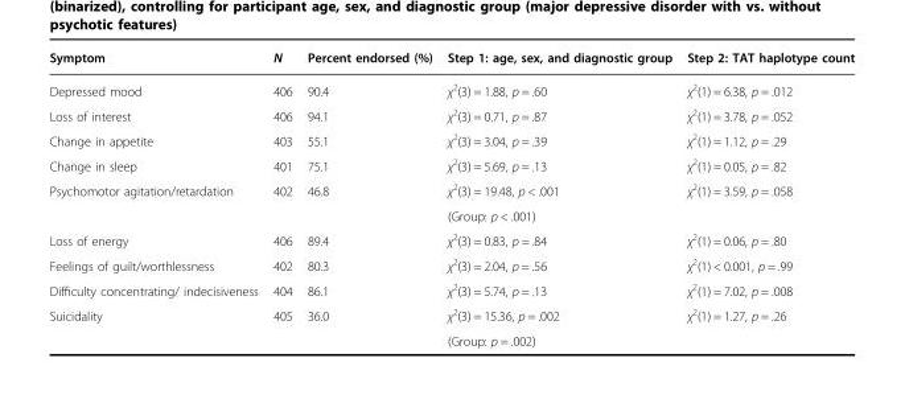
<table><thead><tr><td>Symptom</td><td>N</td><td>Percent endorsed (%)</td><td>Step 1: age, sex, and diagnostic group</td><td>Step 2: TAT haplotype count</td></tr></thead><tbody><tr><td>Depressed mood</td><td>406</td><td>90.4</td><td>χ<sup>2</sup>(3) = 1.88, p = .60</td><td>χ<sup>2</sup>(1) = 6.38, p = .012</td></tr><tr><td>Loss of interest</td><td>406</td><td>94.1</td><td>χ<sup>2</sup>(3) = 0.71, p = .87</td><td>χ<sup>2</sup>(1) = 3.78, p = .052</td></tr><tr><td>Change in appetite</td><td>403</td><td>55.1</td><td>χ<sup>2</sup>(3) = 3.04, p = .39</td><td>χ<sup>2</sup>(1) = 1.12, p = .29</td></tr><tr><td>Change in sleep</td><td>401</td><td>75.1</td><td>χ<sup>2</sup>(3) = 5.69, p = .13</td><td>χ<sup>2</sup>(1) = 0.05, p = .82</td></tr><tr><td rowspan="2">Psychomotor agitation/retardation</td><td rowspan="2">402</td><td rowspan="2">46.8</td><td>χ<sup>2</sup>(3) = 19.48, p &lt; .001</td><td rowspan="2">χ<sup>2</sup>(1) = 3.59, p = .058</td></tr><tr><td>(Group: p &lt; .001)</td></tr><tr><td>Loss of energy</td><td>406</td><td>89.4</td><td>χ<sup>2</sup>(3) = 0.83, p = .84</td><td>χ<sup>2</sup>(1) = 0.06, p = .80</td></tr><tr><td>Feelings of guilt/worthlessness</td><td>402</td><td>80.3</td><td>χ<sup>2</sup>(3) = 2.04, p = .56</td><td>χ<sup>2</sup>(1) &lt; 0.001, p = .99</td></tr><tr><td>Difficulty concentrating/ indecisiveness</td><td>404</td><td>86.1</td><td>χ<sup>2</sup>(3) = 5.74, p = .13</td><td>χ<sup>2</sup>(1) = 7.02, p = .008</td></tr><tr><td rowspan="2">Suicidality</td><td rowspan="2">405</td><td rowspan="2">36.0</td><td>χ<sup>2</sup>(3) = 15.36, p = .002</td><td rowspan="2">χ<sup>2</sup>(1) = 1.27, p = .26</td></tr><tr><td>(Group: p = .002)</td></tr></tbody></table>